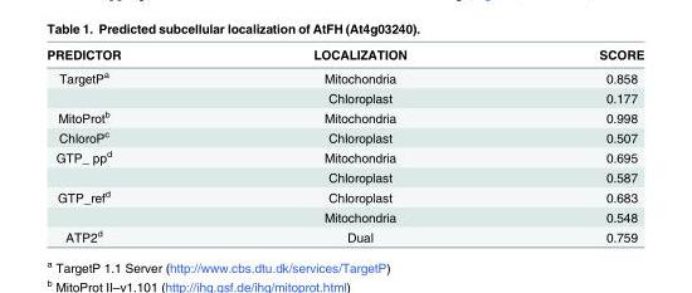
<table><thead><tr><td>PREDICTOR</td><td>LOCALIZATION</td><td>SCORE</td></tr></thead><tbody><tr><td rowspan="2">TargetP<sup>a</sup></td><td>Mitochondria</td><td>0.858</td></tr><tr><td>Chloroplast</td><td>0.177</td></tr><tr><td>MitoProt<sup>b</sup></td><td>Mitochondria</td><td>0.998</td></tr><tr><td>ChloroP<sup>c</sup></td><td>Chloroplast</td><td>0.507</td></tr><tr><td rowspan="2">GTP_ pp<sup>d</sup></td><td>Mitochondria</td><td>0.695</td></tr><tr><td>Chloroplast</td><td>0.587</td></tr><tr><td rowspan="2">GTP_ref<sup>d</sup></td><td>Chloroplast</td><td>0.683</td></tr><tr><td>Mitochondria</td><td>0.548</td></tr><tr><td>ATP2<sup>d</sup></td><td>Dual</td><td>0.759</td></tr></tbody></table>